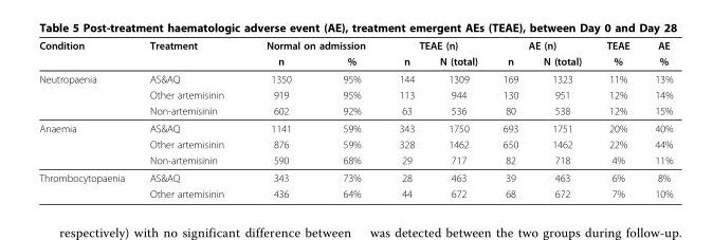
<table><thead><tr><td rowspan="2">Condition</td><td rowspan="2">Treatment</td><td colspan="2">Normal on admission</td><td colspan="2">TEAE (n)</td><td colspan="2">AE (n)</td><td rowspan="2">TEAE %</td><td rowspan="2">AE %</td></tr><tr><td>n</td><td>%</td><td>n</td><td>N (total)</td><td>n</td><td>N (total)</td></tr></thead><tbody><tr><td rowspan="3">Neutropaenia</td><td>AS&amp;AQ</td><td>1350</td><td>95%</td><td>144</td><td>1309</td><td>169</td><td>1323</td><td>11%</td><td>13%</td></tr><tr><td>Other artemisinin</td><td>919</td><td>95%</td><td>113</td><td>944</td><td>130</td><td>951</td><td>12%</td><td>14%</td></tr><tr><td>Non-artemisinin</td><td>602</td><td>92%</td><td>63</td><td>536</td><td>80</td><td>538</td><td>12%</td><td>15%</td></tr><tr><td rowspan="3">Anaemia</td><td>AS&amp;AQ</td><td>1141</td><td>59%</td><td>343</td><td>1750</td><td>693</td><td>1751</td><td>20%</td><td>40%</td></tr><tr><td>Other artemisinin</td><td>876</td><td>59%</td><td>328</td><td>1462</td><td>650</td><td>1462</td><td>22%</td><td>44%</td></tr><tr><td>Non-artemisinin</td><td>590</td><td>68%</td><td>29</td><td>717</td><td>82</td><td>718</td><td>4%</td><td>11%</td></tr><tr><td rowspan="2">Thrombocytopaenia</td><td>AS&amp;AQ</td><td>343</td><td>73%</td><td>28</td><td>463</td><td>39</td><td>463</td><td>6%</td><td>8%</td></tr><tr><td>Other artemisinin</td><td>436</td><td>64%</td><td>44</td><td>672</td><td>68</td><td>672</td><td>7%</td><td>10%</td></tr></tbody></table>